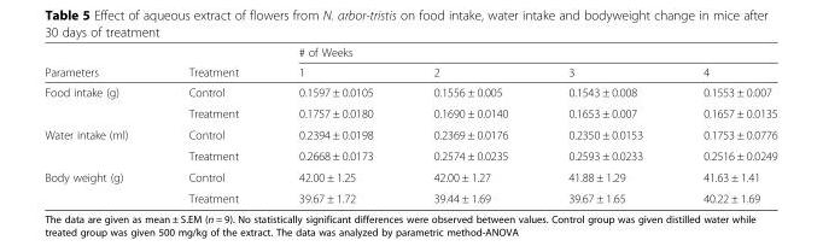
<table><thead><tr><td rowspan="2">Parameters</td><td rowspan="2">Treatment</td><td colspan="4"># of Weeks</td></tr><tr><td>1</td><td>2</td><td>3</td><td>4</td></tr></thead><tbody><tr><td rowspan="2">Food intake (g)</td><td>Control</td><td>0.1597 ± 0.0105</td><td>0.1556 ± 0.005</td><td>0.1543 ± 0.008</td><td>0.1553 ± 0.007</td></tr><tr><td>Treatment</td><td>0.1757 ± 0.0180</td><td>0.1690 ± 0.0140</td><td>0.1653 ± 0.007</td><td>0.1657 ± 0.0135</td></tr><tr><td rowspan="2">Water intake (ml)</td><td>Control</td><td>0.2394 ± 0.0198</td><td>0.2369 ± 0.0176</td><td>0.2350 ± 0.0153</td><td>0.1753 ± 0.0776</td></tr><tr><td>Treatment</td><td>0.2668 ± 0.0173</td><td>0.2574 ± 0.0235</td><td>0.2593 ± 0.0233</td><td>0.2516 ± 0.0249</td></tr><tr><td rowspan="2">Body weight (g)</td><td>Control</td><td>42.00 ± 1.25</td><td>42.00 ± 1.27</td><td>41.88 ± 1.29</td><td>41.63 ± 1.41</td></tr><tr><td>Treatment</td><td>39.67 ± 1.72</td><td>39.44 ± 1.69</td><td>39.67 ± 1.65</td><td>40.22 ± 1.69</td></tr></tbody></table>